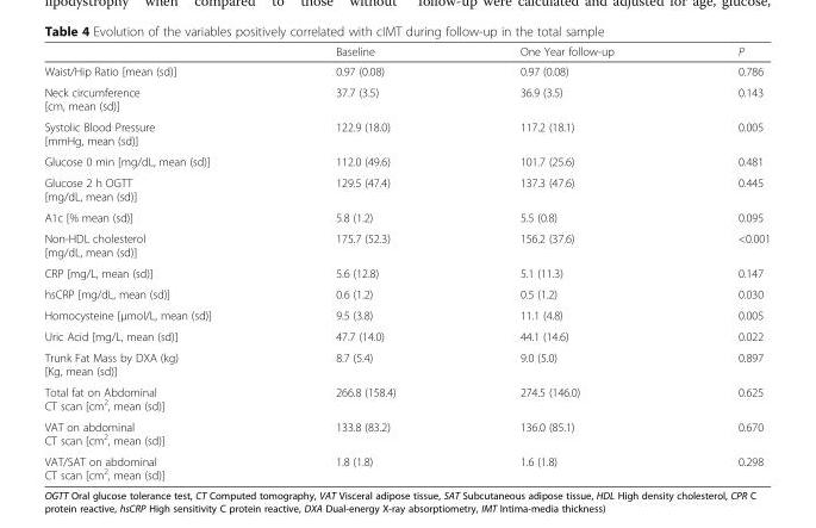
<table><thead><tr><td></td><td>Baseline</td><td>One Year follow-up</td><td>P</td></tr></thead><tbody><tr><td>Waist/Hip Ratio [mean (sd)]</td><td>0.97 (0.08)</td><td>0.97 (0.08)</td><td>0.786</td></tr><tr><td>Neck circumference [cm, mean (sd)]</td><td>37.7 (3.5)</td><td>36.9 (3.5)</td><td>0.143</td></tr><tr><td>Systolic Blood Pressure [mmHg, mean (sd)]</td><td>122.9 (18.0)</td><td>117.2 (18.1)</td><td>0.005</td></tr><tr><td>Glucose 0 min [mg/dL, mean (sd)]</td><td>112.0 (49.6)</td><td>101.7 (25.6)</td><td>0.481</td></tr><tr><td>Glucose 2 h OGTT [mg/dL, mean (sd)]</td><td>129.5 (47.4)</td><td>137.3 (47.6)</td><td>0.445</td></tr><tr><td>A1c [% mean (sd)]</td><td>5.8 (1.2)</td><td>5.5 (0.8)</td><td>0.095</td></tr><tr><td>Non-HDL cholesterol [mg/dL, mean (sd)]</td><td>175.7 (52.3)</td><td>156.2 (37.6)</td><td>&lt;0.001</td></tr><tr><td>CRP [mg/L, mean (sd)]</td><td>5.6 (12.8)</td><td>5.1 (11.3)</td><td>0.147</td></tr><tr><td>hsCRP [mg/dL, mean (sd)]</td><td>0.6 (1.2)</td><td>0.5 (1.2)</td><td>0.030</td></tr><tr><td>Homocysteine [μmol/L, mean (sd)]</td><td>9.5 (3.8)</td><td>11.1 (4.8)</td><td>0.005</td></tr><tr><td>Uric Acid [mg/L, mean (sd)]</td><td>47.7 (14.0)</td><td>44.1 (14.6)</td><td>0.022</td></tr><tr><td>Trunk Fat Mass by DXA (kg) [Kg, mean (sd)]</td><td>8.7 (5.4)</td><td>9.0 (5.0)</td><td>0.897</td></tr><tr><td>Total fat on Abdominal CT scan [cm<sup>2</sup>, mean (sd)]</td><td>266.8 (158.4)</td><td>274.5 (146.0)</td><td>0.625</td></tr><tr><td>VAT on abdominal CT scan [cm<sup>2</sup>, mean (sd)]</td><td>133.8 (83.2)</td><td>136.0 (85.1)</td><td>0.670</td></tr><tr><td>VAT/SAT on abdominal CT scan [cm<sup>2</sup>, mean (sd)]</td><td>1.8 (1.8)</td><td>1.6 (1.8)</td><td>0.298</td></tr></tbody></table>